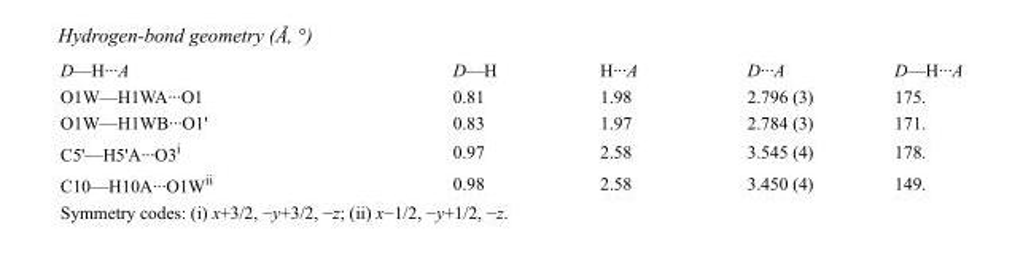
<table><tbody><tr><td>D—H···A</td><td>D—H</td><td>H···A</td><td>D···A</td><td>D—H···A</td></tr><tr><td>O1W—H1WA···O1</td><td>0.81</td><td>1.98</td><td>2.796 (3)</td><td>175.</td></tr><tr><td>O1W—H1WB···O1&#x27;</td><td>0.83</td><td>1.97</td><td>2.784 (3)</td><td>171.</td></tr><tr><td>C5&#x27;—H5&#x27;A···O3<sup>i</sup></td><td>0.97</td><td>2.58</td><td>3.545 (4)</td><td>178.</td></tr><tr><td>C10—H10A···O1W<sup>ii</sup></td><td>0.98</td><td>2.58</td><td>3.450 (4)</td><td>149.</td></tr></tbody></table>